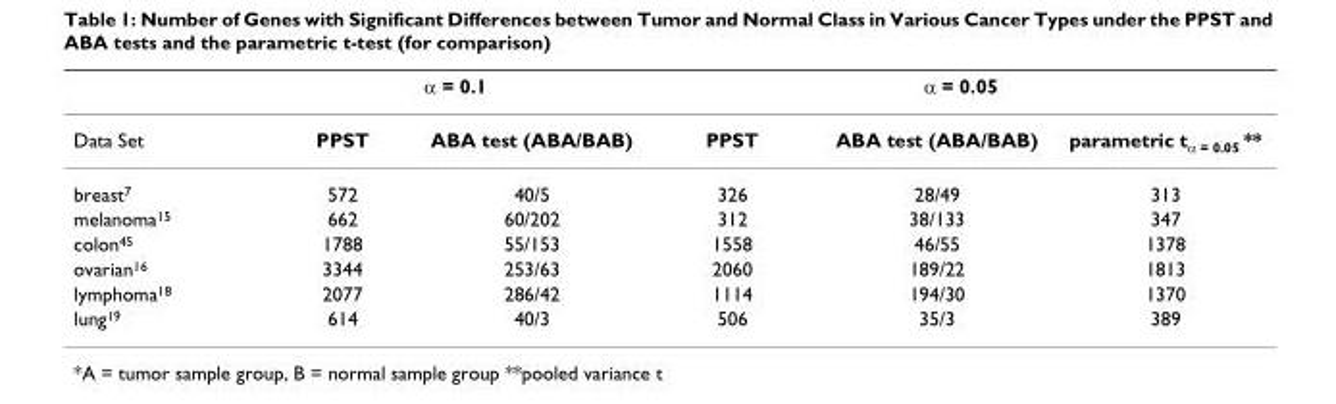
<table><thead><tr><td rowspan="2">Data Set</td><td colspan="2">α = 0.1</td><td colspan="3">α = 0.05</td></tr><tr><td>PPST</td><td>ABA test (ABA/BAB)</td><td>PPST</td><td>ABA test (ABA/BAB)</td><td>parametric tα = 0.05 **</td></tr></thead><tbody><tr><td>breast7</td><td>572</td><td>40/5</td><td>326</td><td>28/49</td><td>313</td></tr><tr><td>melanoma15</td><td>662</td><td>60/202</td><td>312</td><td>38/133</td><td>347</td></tr><tr><td>colon45</td><td>1788</td><td>55/153</td><td>1558</td><td>46/55</td><td>1378</td></tr><tr><td>ovarian16</td><td>3344</td><td>253/63</td><td>2060</td><td>189/22</td><td>1813</td></tr><tr><td>lymphoma18</td><td>2077</td><td>286/42</td><td>1114</td><td>194/30</td><td>1370</td></tr><tr><td>lung19</td><td>614</td><td>40/3</td><td>506</td><td>35/3</td><td>389</td></tr></tbody></table>